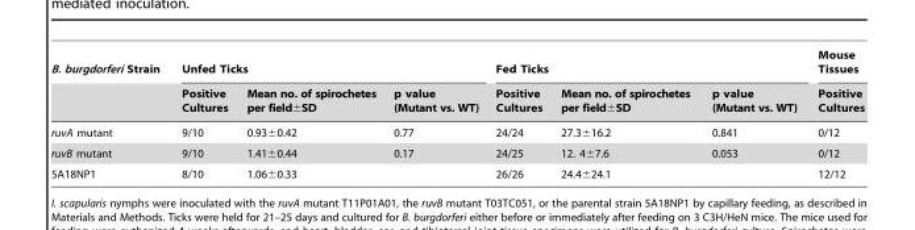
<table><thead><tr><td rowspan="2">B. burgdorferi Strain</td><td colspan="3">Unfed Ticks</td><td colspan="3">Fed Ticks</td><td rowspan="2">Mouse Tissues Positive Cultures</td></tr><tr><td>Positive Cultures</td><td>Mean no. of spirochetes per field±SD</td><td>p value (Mutant vs. WT)</td><td>Positive Cultures</td><td>Mean no. of spirochetes per field±SD</td><td>p value (Mutant vs. WT)</td></tr></thead><tbody><tr><td>ruvA mutant</td><td>9/10</td><td>0.93±0.42</td><td>0.77</td><td>24/24</td><td>27.3±16.2</td><td>0.841</td><td>0/12</td></tr><tr><td>ruvB mutant</td><td>9/10</td><td>1.41±0.44</td><td>0.17</td><td>24/25</td><td>12. 4±7.6</td><td>0.053</td><td>0/12</td></tr><tr><td>5A18NP1</td><td>8/10</td><td>1.06±0.33</td><td></td><td>26/26</td><td>24.4±24.1</td><td></td><td>12/12</td></tr></tbody></table>